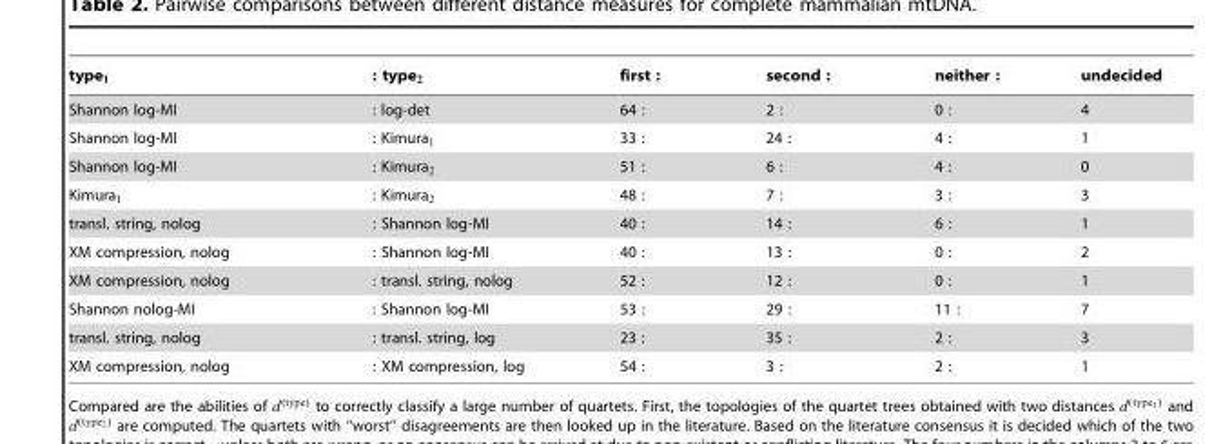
<table><thead><tr><td>type1</td><td>: type2</td><td>first :</td><td>second :</td><td>neither :</td><td>undecided</td></tr></thead><tbody><tr><td>Shannon log-MI</td><td>: log-det</td><td>64 :</td><td>2 :</td><td>0 :</td><td>4</td></tr><tr><td>Shannon log-MI</td><td>: Kimura1</td><td>33 :</td><td>24 :</td><td>4 :</td><td>1</td></tr><tr><td>Shannon log-MI</td><td>: Kimura2</td><td>51 :</td><td>6 :</td><td>4 :</td><td>0</td></tr><tr><td>Kimura1</td><td>: Kimura2</td><td>48 :</td><td>7 :</td><td>3 :</td><td>3</td></tr><tr><td>transl. string, nolog</td><td>: Shannon log-MI</td><td>40 :</td><td>14 :</td><td>6 :</td><td>1</td></tr><tr><td>XM compression, nolog</td><td>: Shannon log-MI</td><td>40 :</td><td>13 :</td><td>0 :</td><td>2</td></tr><tr><td>XM compression, nolog</td><td>: transl. string, nolog</td><td>52 :</td><td>12 :</td><td>0 :</td><td>1</td></tr><tr><td>Shannon nolog-MI</td><td>: Shannon log-MI</td><td>53 :</td><td>29 :</td><td>11 :</td><td>7</td></tr><tr><td>transl. string, nolog</td><td>: transl. string, log</td><td>23 :</td><td>35 :</td><td>2 :</td><td>3</td></tr><tr><td>XM compression, nolog</td><td>: XM compression, log</td><td>54 :</td><td>3 :</td><td>2 :</td><td>1</td></tr></tbody></table>